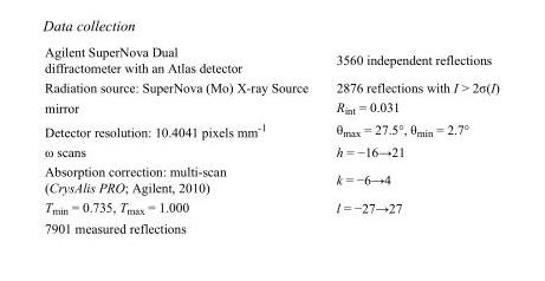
<table><tbody><tr><td>Agilent SuperNova Dual diffractometer with an Atlas detector</td><td>3560 independent reflections</td></tr><tr><td>Radiation source: SuperNova (Mo) X-ray Source</td><td>2876 reflections with I &gt; 2σ(I)</td></tr><tr><td>mirror</td><td>R<sub>int</sub> = 0.031</td></tr><tr><td>Detector resolution: 10.4041 pixels mm<sup>-1</sup></td><td>θ<sub>max</sub> = 27.5°, θ<sub>min</sub> = 2.7°</td></tr><tr><td>ω scans</td><td>h = −16→21</td></tr><tr><td>Absorption correction: multi-scan (CrysAlis PRO; Agilent, 2010)</td><td>k = −6→4</td></tr><tr><td>T<sub>min</sub> = 0.735, T<sub>max</sub> = 1.000</td><td>l = −27→27</td></tr><tr><td>7901 measured reflections</td><td></td></tr></tbody></table>